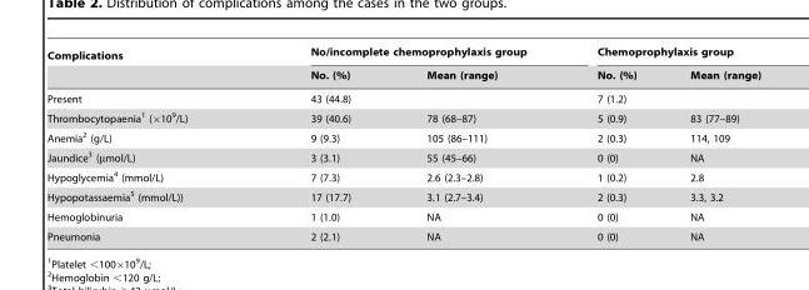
<table><thead><tr><td rowspan="2">Complications</td><td colspan="2">No/incomplete chemoprophylaxis group</td><td colspan="2">Chemoprophylaxis group</td></tr><tr><td>No. (%)</td><td>Mean (range)</td><td>No. (%)</td><td>Mean (range)</td></tr></thead><tbody><tr><td>Present</td><td>43 (44.8)</td><td></td><td>7 (1.2)</td><td></td></tr><tr><td>Thrombocytopaenia<sup>1</sup> (×10<sup>9</sup>/L)</td><td>39 (40.6)</td><td>78 (68–87)</td><td>5 (0.9)</td><td>83 (77–89)</td></tr><tr><td>Anemia<sup>2</sup> (g/L)</td><td>9 (9.3)</td><td>105 (86–111)</td><td>2 (0.3)</td><td>114, 109</td></tr><tr><td>Jaundice<sup>3</sup> (µmol/L)</td><td>3 (3.1)</td><td>55 (45–66)</td><td>0 (0)</td><td>NA</td></tr><tr><td>Hypoglycemia<sup>4</sup> (mmol/L)</td><td>7 (7.3)</td><td>2.6 (2.3–2.8)</td><td>1 (0.2)</td><td>2.8</td></tr><tr><td>Hypopotassaemia<sup>5</sup> (mmol/L))</td><td>17 (17.7)</td><td>3.1 (2.7–3.4)</td><td>2 (0.3)</td><td>3.3, 3.2</td></tr><tr><td>Hemoglobinuria</td><td>1 (1.0)</td><td>NA</td><td>0 (0)</td><td>NA</td></tr><tr><td>Pneumonia</td><td>2 (2.1)</td><td>NA</td><td>0 (0)</td><td>NA</td></tr></tbody></table>